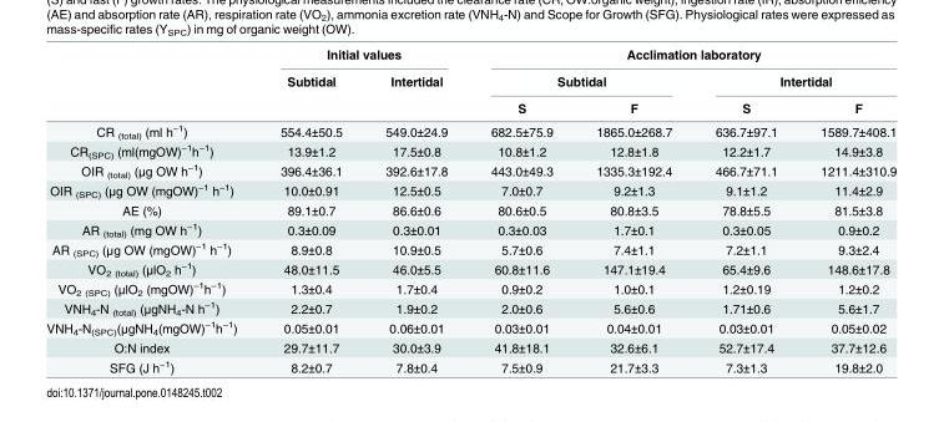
<table><thead><tr><td rowspan="3"></td><td colspan="2">Initial values</td><td colspan="4">Acclimation laboratory</td></tr><tr><td rowspan="2">Subtidal</td><td rowspan="2">Intertidal</td><td colspan="2">Subtidal</td><td colspan="2">Intertidal</td></tr><tr><td>S</td><td>F</td><td>S</td><td>F</td></tr></thead><tbody><tr><td>CR <sub>(total)</sub> (ml h<sup>−1</sup>)</td><td>554.4±50.5</td><td>549.0±24.9</td><td>682.5±75.9</td><td>1865.0±268.7</td><td>636.7±97.1</td><td>1589.7±408.1</td></tr><tr><td>CR<sub>(SPC)</sub> (ml(mgOW)<sup>−1</sup>h<sup>−1</sup>)</td><td>13.9±1.2</td><td>17.5±0.8</td><td>10.8±1.2</td><td>12.8±1.8</td><td>12.2±1.7</td><td>14.9±3.8</td></tr><tr><td>OIR <sub>(total)</sub> (μg OW h<sup>−1</sup>)</td><td>396.4±36.1</td><td>392.6±17.8</td><td>443.0±49.3</td><td>1335.3±192.4</td><td>466.7±71.1</td><td>1211.4±310.9</td></tr><tr><td>OIR <sub>(SPC)</sub> (μg OW (mgOW)<sup>−1</sup> h<sup>−1</sup>)</td><td>10.0±0.91</td><td>12.5±0.5</td><td>7.0±0.7</td><td>9.2±1.3</td><td>9.1±1.2</td><td>11.4±2.9</td></tr><tr><td>AE (%)</td><td>89.1±0.7</td><td>86.6±0.6</td><td>80.6±0.5</td><td>80.8±3.5</td><td>78.8±5.5</td><td>81.5±3.8</td></tr><tr><td>AR <sub>(total)</sub> (mg OW h<sup>−1</sup>)</td><td>0.3±0.09</td><td>0.3±0.01</td><td>0.3±0.03</td><td>1.7±0.1</td><td>0.3±0.05</td><td>0.9±0.2</td></tr><tr><td>AR <sub>(SPC)</sub> (μg OW (mgOW)<sup>−1</sup> h<sup>−1</sup>)</td><td>8.9±0.8</td><td>10.9±0.5</td><td>5.7±0.6</td><td>7.4±1.1</td><td>7.2±1.1</td><td>9.3±2.4</td></tr><tr><td>VO<sub>2 (total)</sub> (μlO<sub>2</sub> h<sup>−1</sup>)</td><td>48.0±11.5</td><td>46.0±5.5</td><td>60.8±11.6</td><td>147.1±19.4</td><td>65.4±9.6</td><td>148.6±17.8</td></tr><tr><td>VO<sub>2 (SPC)</sub> (μlO<sub>2</sub> (mgOW)<sup>−1</sup>h<sup>−1</sup>)</td><td>1.3±0.4</td><td>1.7±0.4</td><td>0.9±0.2</td><td>1.0±0.1</td><td>1.2±0.19</td><td>1.2±0.2</td></tr><tr><td>VNH<sub>4</sub>-N <sub>(total)</sub> (μgNH<sub>4</sub>-N h<sup>−1</sup>)</td><td>2.2±0.7</td><td>1.9±0.2</td><td>2.0±0.6</td><td>5.6±0.6</td><td>1.71±0.6</td><td>5.6±1.7</td></tr><tr><td>VNH<sub>4</sub>-N<sub>(SPC)</sub>(μgNH<sub>4</sub>(mgOW)<sup>−1</sup>h<sup>−1</sup>)</td><td>0.05±0.01</td><td>0.06±0.01</td><td>0.03±0.01</td><td>0.04±0.01</td><td>0.03±0.01</td><td>0.05±0.02</td></tr><tr><td>O:N index</td><td>29.7±11.7</td><td>30.0±3.9</td><td>41.8±18.1</td><td>32.6±6.1</td><td>52.7±17.4</td><td>37.7±12.6</td></tr><tr><td>SFG (J h<sup>−1</sup>)</td><td>8.2±0.7</td><td>7.8±0.4</td><td>7.5±0.9</td><td>21.7±3.3</td><td>7.3±1.3</td><td>19.8±2.0</td></tr></tbody></table>